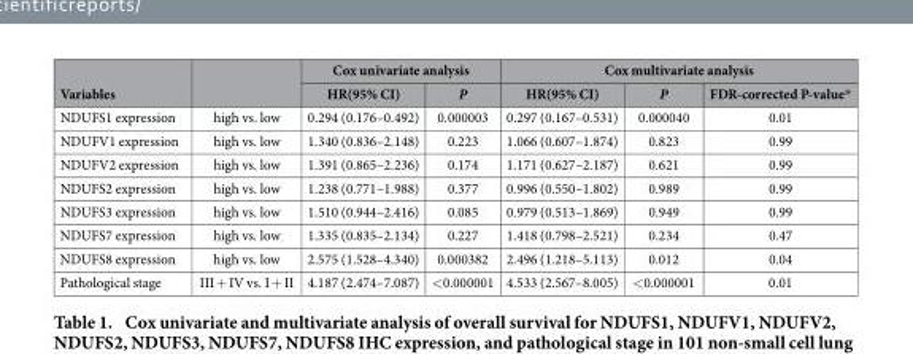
<table><thead><tr><td rowspan="2">Variables</td><td rowspan="2"></td><td colspan="2">Cox univariate analysis</td><td colspan="3">Cox multivariate analysis</td></tr><tr><td>HR(95% CI)</td><td>P</td><td>HR(95% CI)</td><td>P</td><td>FDR-corrected P-value*</td></tr></thead><tbody><tr><td>NDUFS1 expression</td><td>high vs. low</td><td>0.294 (0.176–0.492)</td><td>0.000003</td><td>0.297 (0.167–0.531)</td><td>0.000040</td><td>0.01</td></tr><tr><td>NDUFV1 expression</td><td>high vs. low</td><td>1.340 (0.836–2.148)</td><td>0.223</td><td>1.066 (0.607–1.874)</td><td>0.823</td><td>0.99</td></tr><tr><td>NDUFV2 expression</td><td>high vs. low</td><td>1.391 (0.865–2.236)</td><td>0.174</td><td>1.171 (0.627–2.187)</td><td>0.621</td><td>0.99</td></tr><tr><td>NDUFS2 expression</td><td>high vs. low</td><td>1.238 (0.771–1.988)</td><td>0.377</td><td>0.996 (0.550–1.802)</td><td>0.989</td><td>0.99</td></tr><tr><td>NDUFS3 expression</td><td>high vs. low</td><td>1.510 (0.944–2.416)</td><td>0.085</td><td>0.979 (0.513–1.869)</td><td>0.949</td><td>0.99</td></tr><tr><td>NDUFS7 expression</td><td>high vs. low</td><td>1.335 (0.835–2.134)</td><td>0.227</td><td>1.418 (0.798–2.521)</td><td>0.234</td><td>0.47</td></tr><tr><td>NDUFS8 expression</td><td>high vs. low</td><td>2.575 (1.528–4.340)</td><td>0.000382</td><td>2.496 (1.218–5.113)</td><td>0.012</td><td>0.04</td></tr><tr><td>Pathological stage</td><td>III + IV vs. I + II</td><td>4.187 (2.474–7.087)</td><td>&lt; 0.000001</td><td>4.533 (2.567–8.005)</td><td>&lt; 0.000001</td><td>0.01</td></tr></tbody></table>